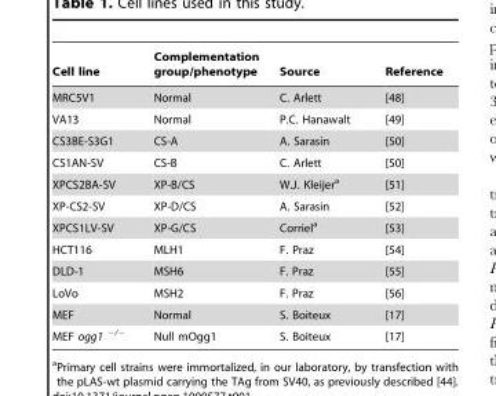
<table><thead><tr><td>Cell line</td><td>Complementation group/phenotype</td><td>Source</td><td>Reference</td></tr></thead><tbody><tr><td>MRC5V1</td><td>Normal</td><td>C. Arlett</td><td>[48]</td></tr><tr><td>VA13</td><td>Normal</td><td>P.C. Hanawalt</td><td>[49]</td></tr><tr><td>CS3BE-S3G1</td><td>CS-A</td><td>A. Sarasin</td><td>[50]</td></tr><tr><td>CS1AN-SV</td><td>CS-B</td><td>C. Arlett</td><td>[50]</td></tr><tr><td>XPCS2BA-SV</td><td>XP-B/CS</td><td>W.J. Kleijer<sup>a</sup></td><td>[51]</td></tr><tr><td>XP-CS2-SV</td><td>XP-D/CS</td><td>A. Sarasin</td><td>[52]</td></tr><tr><td>XPCS1LV-SV</td><td>XP-G/CS</td><td>Corriel<sup>a</sup></td><td>[53]</td></tr><tr><td>HCT116</td><td>MLH1</td><td>F. Praz</td><td>[54]</td></tr><tr><td>DLD-1</td><td>MSH6</td><td>F. Praz</td><td>[55]</td></tr><tr><td>LoVo</td><td>MSH2</td><td>F. Praz</td><td>[56]</td></tr><tr><td>MEF</td><td>Normal</td><td>S. Boiteux</td><td>[17]</td></tr><tr><td>MEF ogg1 <sup>−/−</sup></td><td>Null mOgg1</td><td>S. Boiteux</td><td>[17]</td></tr></tbody></table>